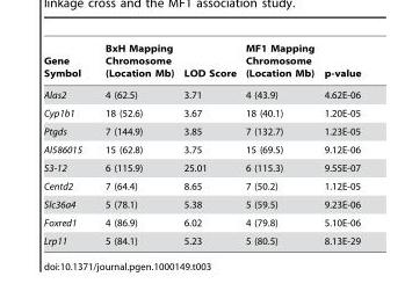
<table><thead><tr><td>Gene Symbol</td><td>BxH Mapping Chromosome (Location Mb)</td><td>LOD Score</td><td>MF1 Mapping Chromosome (Location Mb)</td><td>p-value</td></tr></thead><tbody><tr><td>Alas2</td><td>4 (62.5)</td><td>3.71</td><td>4 (43.9)</td><td>4.62E-06</td></tr><tr><td>Cyp1b1</td><td>18 (52.6)</td><td>3.67</td><td>18 (40.1)</td><td>1.20E-05</td></tr><tr><td>Ptgds</td><td>7 (144.9)</td><td>3.85</td><td>7 (132.7)</td><td>1.23E-05</td></tr><tr><td>AI586015</td><td>15 (62.8)</td><td>3.75</td><td>15 (69.5)</td><td>9.12E-06</td></tr><tr><td>S3-12</td><td>6 (115.9)</td><td>25.01</td><td>6 (115.3)</td><td>9.55E-07</td></tr><tr><td>Centd2</td><td>7 (64.4)</td><td>8.65</td><td>7 (50.2)</td><td>1.12E-05</td></tr><tr><td>Slc36a4</td><td>5 (78.1)</td><td>5.38</td><td>5 (59.5)</td><td>9.23E-06</td></tr><tr><td>Foxred1</td><td>4 (86.9)</td><td>6.02</td><td>4 (79.8)</td><td>5.10E-06</td></tr><tr><td>Lrp11</td><td>5 (84.1)</td><td>5.23</td><td>5 (80.5)</td><td>8.13E-29</td></tr></tbody></table>